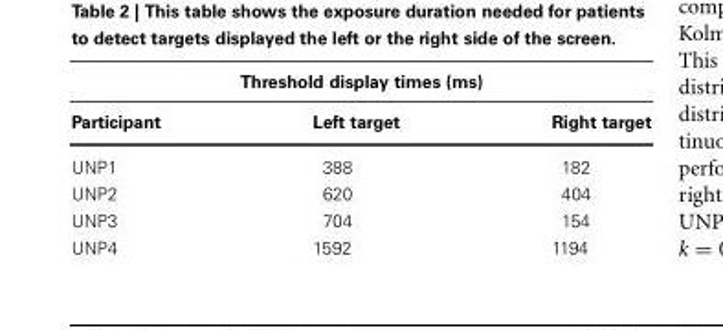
<table><thead><tr><td colspan="3">Threshold display times (ms)</td></tr><tr><td>Participant</td><td>Left target</td><td>Right target</td></tr></thead><tbody><tr><td>UNP1</td><td>388</td><td>182</td></tr><tr><td>UNP2</td><td>620</td><td>404</td></tr><tr><td>UNP3</td><td>704</td><td>154</td></tr><tr><td>UNP4</td><td>1592</td><td>1194</td></tr></tbody></table>